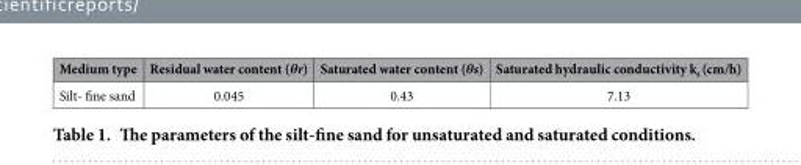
<table><thead><tr><td>Medium type</td><td>Residual water content (θr)</td><td>Saturated water content (θs)</td><td>Saturated hydraulic conductivity k<sub>s</sub> (cm/h)</td></tr></thead><tbody><tr><td>Silt- fine sand</td><td>0.045</td><td>0.43</td><td>7.13</td></tr></tbody></table>